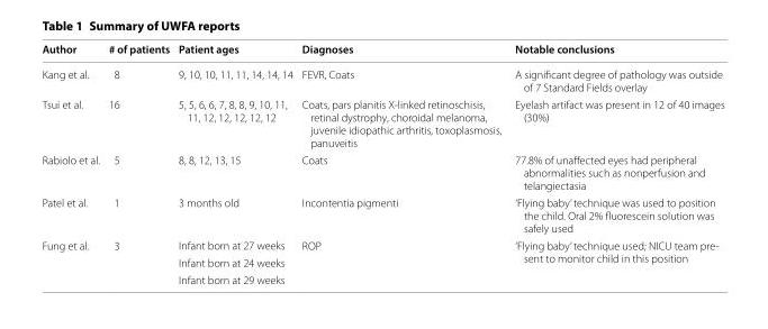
<table><thead><tr><td>Author</td><td># of patients</td><td>Patient ages</td><td>Diagnoses</td><td>Notable conclusions</td></tr></thead><tbody><tr><td>Kang et al.</td><td>8</td><td>9, 10, 10, 11, 11, 14, 14, 14</td><td>FEVR, Coats</td><td>A significant degree of pathology was outside of 7 Standard Fields overlay</td></tr><tr><td>Tsui et al.</td><td>16</td><td>5, 5, 6, 6, 7, 8, 8, 9, 10, 11, 11, 12, 12, 12, 12, 12</td><td>Coats, pars planitis X-linked retinoschisis, retinal dystrophy, choroidal melanoma, juvenile idiopathic arthritis, toxoplasmosis, panuveitis</td><td>Eyelash artifact was present in 12 of 40 images (30%)</td></tr><tr><td>Rabiolo et al.</td><td>5</td><td>8, 8, 12, 13, 15</td><td>Coats</td><td>77.8% of unaffected eyes had peripheral abnormalities such as nonperfusion and telangiectasia</td></tr><tr><td>Patel et al.</td><td>1</td><td>3 months old</td><td>Incontentia pigmenti</td><td>‘Flying baby’ technique was used to position the child. Oral 2% fluorescein solution was safely used</td></tr><tr><td rowspan="3">Fung et al.</td><td rowspan="3">3</td><td>Infant born at 27 weeks</td><td rowspan="3">ROP</td><td rowspan="3">‘Flying baby’ technique used; NICU team pre- sent to monitor child in this position</td></tr><tr><td>Infant born at 24 weeks</td></tr><tr><td>Infant born at 29 weeks</td></tr></tbody></table>